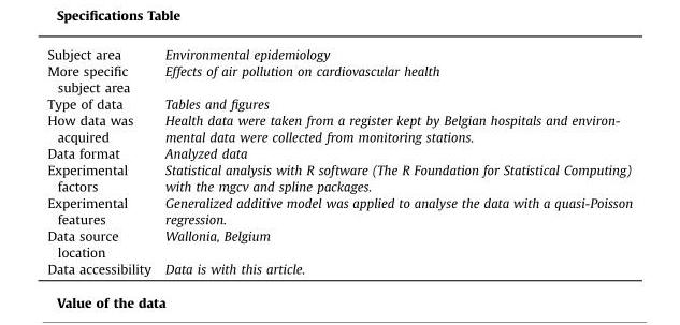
<table><tbody><tr><td>Subject area</td><td>Environmental epidemiology</td></tr><tr><td>More specific subject area</td><td>Effects of air pollution on cardiovascular health</td></tr><tr><td>Type of data</td><td>Tables and figures</td></tr><tr><td>How data was acquired</td><td>Health data were taken from a register kept by Belgian hospitals and environ- mental data were collected from monitoring stations.</td></tr><tr><td>Data format</td><td>Analyzed data</td></tr><tr><td>Experimental factors</td><td>Statistical analysis with R software (The R Foundation for Statistical Computing) with the mgcv and spline packages.</td></tr><tr><td>Experimental features</td><td>Generalized additive model was applied to analyse the data with a quasi-Poisson regression.</td></tr><tr><td>Data source location</td><td>Wallonia, Belgium</td></tr><tr><td>Data accessibility</td><td>Data is with this article.</td></tr></tbody></table>